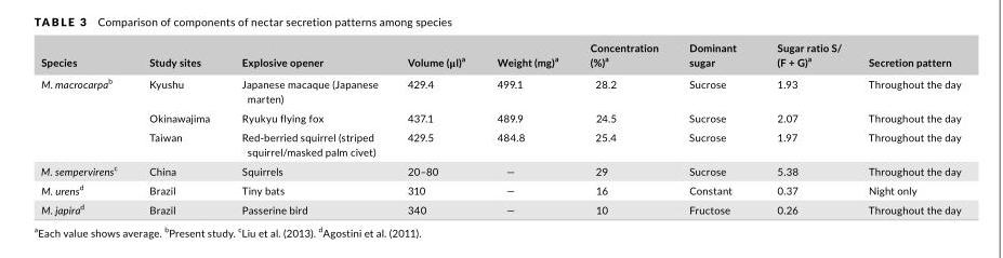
<table><thead><tr><td>Species</td><td>Study sites</td><td>Explosive opener</td><td>Volume (μl)<sup>a</sup></td><td>Weight (mg)<sup>a</sup></td><td>Concentration (%)<sup>a</sup></td><td>Dominant sugar</td><td>Sugar ratio S/ (F + G)<sup>a</sup></td><td>Secretion pattern</td></tr></thead><tbody><tr><td rowspan="3">M. macrocarpab</td><td>Kyushu</td><td>Japanese macaque (Japanese marten)</td><td>429.4</td><td>499.1</td><td>28.2</td><td>Sucrose</td><td>1.93</td><td>Throughout the day</td></tr><tr><td>Okinawajima</td><td>Ryukyu flying fox</td><td>437.1</td><td>489.9</td><td>24.5</td><td>Sucrose</td><td>2.07</td><td>Throughout the day</td></tr><tr><td>Taiwan</td><td>Red- berried squirrel (striped squirrel/masked palm civet)</td><td>429.5</td><td>484.8</td><td>25.4</td><td>Sucrose</td><td>1.97</td><td>Throughout the day</td></tr><tr><td>M. sempervirensc</td><td>China</td><td>Squirrels</td><td>20–80</td><td>—</td><td>29</td><td>Sucrose</td><td>5.38</td><td>Throughout the day</td></tr><tr><td>M. urensd</td><td>Brazil</td><td>Tiny bats</td><td>310</td><td>—</td><td>16</td><td>Constant</td><td>0.37</td><td>Night only</td></tr><tr><td>M. japirad</td><td>Brazil</td><td>Passerine bird</td><td>340</td><td>—</td><td>10</td><td>Fructose</td><td>0.26</td><td>Throughout the day</td></tr></tbody></table>